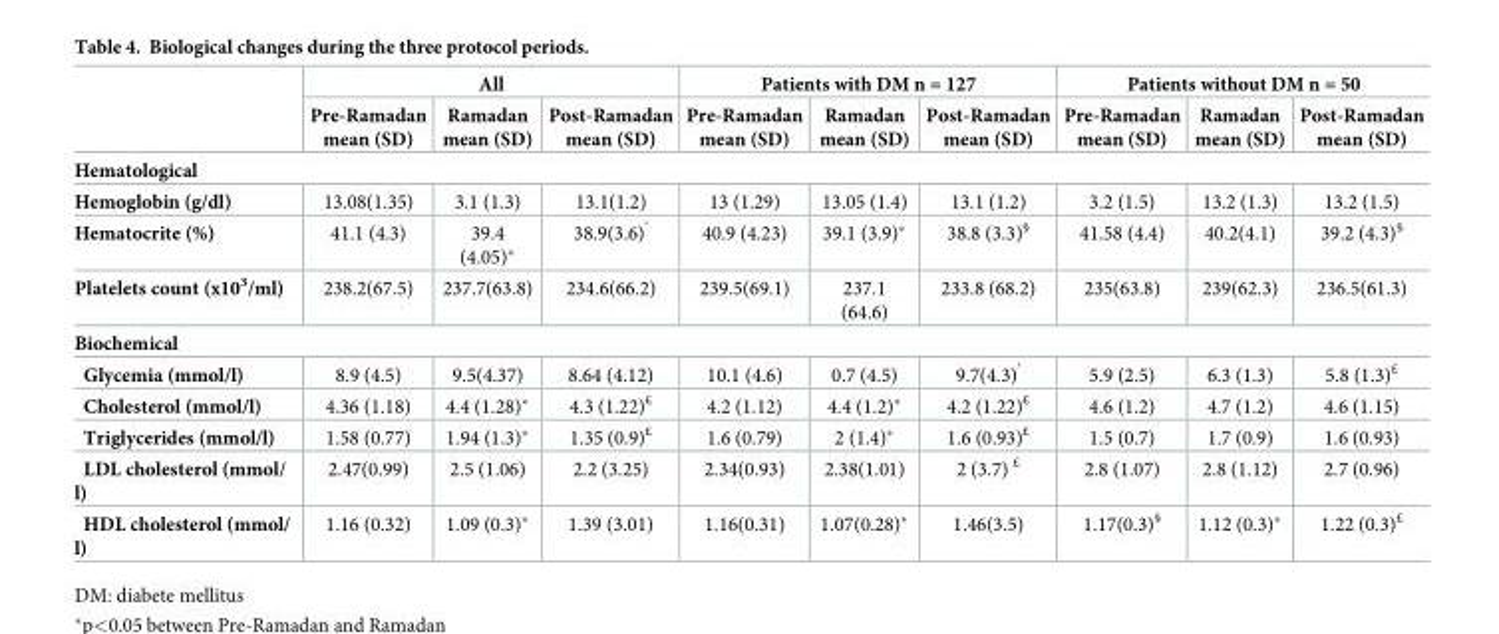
<table><thead><tr><td rowspan="2"></td><td colspan="3">All</td><td colspan="3">Patients with DM n = 127</td><td colspan="3">Patients without DM n = 50</td></tr><tr><td>Pre-Ramadan mean (SD)</td><td>Ramadan mean (SD)</td><td>Post-Ramadan mean (SD)</td><td>Pre-Ramadan mean (SD)</td><td>Ramadan mean (SD)</td><td>Post-Ramadan mean (SD)</td><td>Pre-Ramadan mean (SD)</td><td>Ramadan mean (SD)</td><td>Post-Ramadan mean (SD)</td></tr></thead><tbody><tr><td colspan="10">Hematological</td></tr><tr><td>Hemoglobin (g/dl)</td><td>13.08(1.35)</td><td>3.1 (1.3)</td><td>13.1(1.2)</td><td>13 (1.29)</td><td>13.05 (1.4)</td><td>13.1 (1.2)</td><td>3.2 (1.5)</td><td>13.2 (1.3)</td><td>13.2 (1.5)</td></tr><tr><td>Hematocrite (%)</td><td>41.1 (4.3)</td><td>39.4 (4.05)*</td><td>38.9(3.6)‘</td><td>40.9 (4.23)</td><td>39.1 (3.9)*</td><td>38.8 (3.3)<sup>§</sup></td><td>41.58 (4.4)</td><td>40.2(4.1)</td><td>39.2 (4.3)<sup>§</sup></td></tr><tr><td>Platelets count (x10<sup>3</sup>/ml)</td><td>238.2(67.5)</td><td>237.7(63.8)</td><td>234.6(66.2)</td><td>239.5(69.1)</td><td>237.1 (64.6)</td><td>233.8 (68.2)</td><td>235(63.8)</td><td>239(62.3)</td><td>236.5(61.3)</td></tr><tr><td colspan="10">Biochemical</td></tr><tr><td>Glycemia (mmol/l)</td><td>8.9 (4.5)</td><td>9.5(4.37)</td><td>8.64 (4.12)</td><td>10.1 (4.6)</td><td>0.7 (4.5)</td><td>9.7(4.3)‘</td><td>5.9 (2.5)</td><td>6.3 (1.3)</td><td>5.8 (1.3)<sup>£</sup></td></tr><tr><td>Cholesterol (mmol/l)</td><td>4.36 (1.18)</td><td>4.4 (1.28)*</td><td>4.3 (1.22)<sup>£</sup></td><td>4.2 (1.12)</td><td>4.4 (1.2)*</td><td>4.2 (1.22)<sup>£</sup></td><td>4.6 (1.2)</td><td>4.7 (1.2)</td><td>4.6 (1.15)</td></tr><tr><td>Triglycerides (mmol/l)</td><td>1.58 (0.77)</td><td>1.94 (1.3)*</td><td>1.35 (0.9)<sup>£</sup></td><td>1.6 (0.79)</td><td>2 (1.4)*</td><td>1.6 (0.93)<sup>£</sup></td><td>1.5 (0.7)</td><td>1.7 (0.9)</td><td>1.6 (0.93)</td></tr><tr><td>LDL cholesterol (mmol/ l)</td><td>2.47(0.99)</td><td>2.5 (1.06)</td><td>2.2 (3.25)</td><td>2.34(0.93)</td><td>2.38(1.01)</td><td>2 (3.7) <sup>£</sup></td><td>2.8 (1.07)</td><td>2.8 (1.12)</td><td>2.7 (0.96)</td></tr><tr><td>HDL cholesterol (mmol/ l)</td><td>1.16 (0.32)</td><td>1.09 (0.3)*</td><td>1.39 (3.01)</td><td>1.16(0.31)</td><td>1.07(0.28)*</td><td>1.46(3.5)</td><td>1.17(0.3)<sup>§</sup></td><td>1.12 (0.3)*</td><td>1.22 (0.3)<sup>£</sup></td></tr></tbody></table>